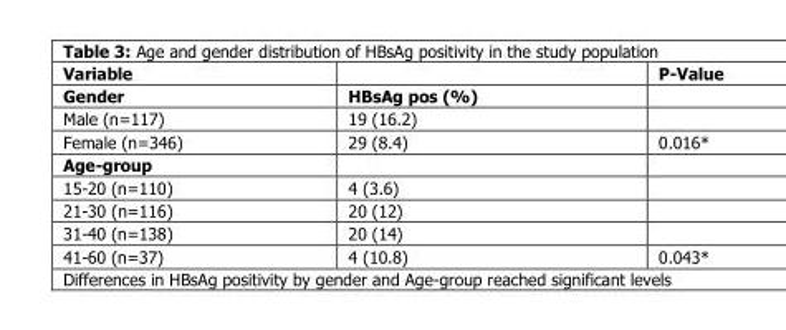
<table><thead><tr><td>Variable</td><td></td><td>P-Value</td></tr></thead><tbody><tr><td>Gender</td><td>HBsAg pos (%)</td><td></td></tr><tr><td>Male (n=117)</td><td>19 (16.2)</td><td></td></tr><tr><td>Female (n=346)</td><td>29 (8.4)</td><td>0.016*</td></tr><tr><td colspan="3">Age-group</td></tr><tr><td>15-20 (n=110)</td><td>4 (3.6)</td><td></td></tr><tr><td>21-30 (n=116)</td><td>20 (12)</td><td></td></tr><tr><td>31-40 (n=138)</td><td>20 (14)</td><td></td></tr><tr><td>41-60 (n=37)</td><td>4 (10.8)</td><td>0.043*</td></tr></tbody></table>